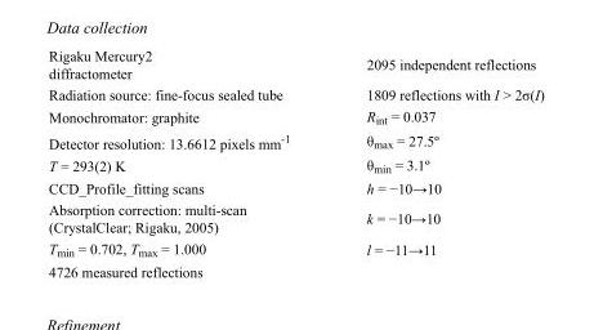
<table><tbody><tr><td>Rigaku Mercury2 diffractometer</td><td>2095 independent reflections</td></tr><tr><td>Radiation source: fine-focus sealed tube</td><td>1809 reflections with I &gt; 2σ(I)</td></tr><tr><td>Monochromator: graphite</td><td>R<sub>int</sub> = 0.037</td></tr><tr><td>Detector resolution: 13.6612 pixels mm<sup>-1</sup></td><td>θ<sub>max</sub> = 27.5º</td></tr><tr><td>T = 293(2) K</td><td>θ<sub>min</sub> = 3.1º</td></tr><tr><td>CCD_Profile_fitting scans</td><td>h = −10→10</td></tr><tr><td>Absorption correction: multi-scan (CrystalClear; Rigaku, 2005)</td><td>k = −10→10</td></tr><tr><td>T<sub>min</sub> = 0.702, T<sub>max</sub> = 1.000</td><td>l = −11→11</td></tr><tr><td>4726 measured reflections</td><td></td></tr></tbody></table>